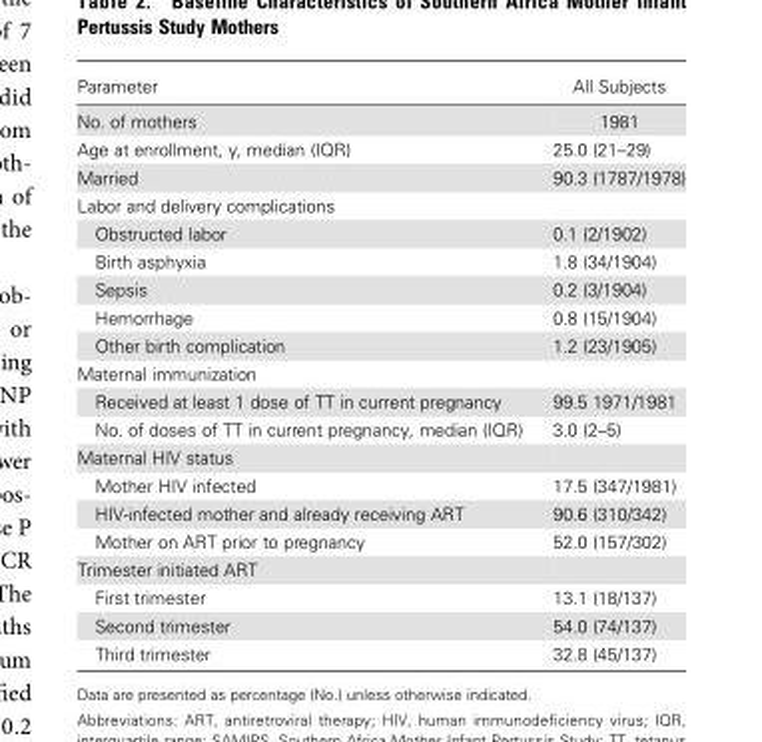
<table><thead><tr><td>Parameter</td><td>All Subjects</td></tr></thead><tbody><tr><td>No. of mothers</td><td>1981</td></tr><tr><td>Age at enrollment, y, median (IQR)</td><td>25.0 (21–29)</td></tr><tr><td>Married</td><td>90.3 (1787/1978)</td></tr><tr><td colspan="2">Labor and delivery complications</td></tr><tr><td>Obstructed labor</td><td>0.1 (2/1902)</td></tr><tr><td>Birth asphyxia</td><td>1.8 (34/1904)</td></tr><tr><td>Sepsis</td><td>0.2 (3/1904)</td></tr><tr><td>Hemorrhage</td><td>0.8 (15/1904)</td></tr><tr><td>Other birth complication</td><td>1.2 (23/1905)</td></tr><tr><td colspan="2">Maternal immunization</td></tr><tr><td>Received at least 1 dose of TT in current pregnancy</td><td>99.5 1971/1981</td></tr><tr><td>No. of doses of TT in current pregnancy, median (IQR)</td><td>3.0 (2–5)</td></tr><tr><td colspan="2">Maternal HIV status</td></tr><tr><td>Mother HIV infected</td><td>17.5 (347/1981)</td></tr><tr><td>HIV-infected mother and already receiving ART</td><td>90.6 (310/342)</td></tr><tr><td>Mother on ART prior to pregnancy</td><td>52.0 (157/302)</td></tr><tr><td colspan="2">Trimester initiated ART</td></tr><tr><td>First trimester</td><td>13.1 (18/137)</td></tr><tr><td>Second trimester</td><td>54.0 (74/137)</td></tr><tr><td>Third trimester</td><td>32.8 (45/137)</td></tr></tbody></table>